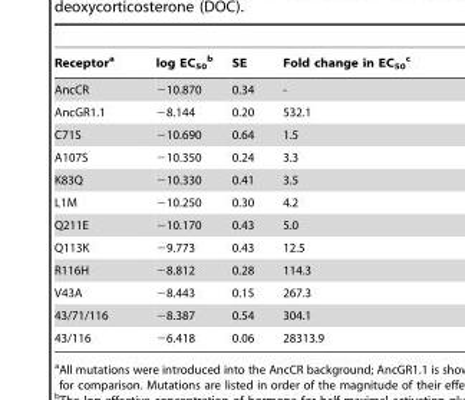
<table><thead><tr><td>Receptor<sup>a</sup></td><td>log EC<sub>50</sub> b</td><td>SE</td><td>Fold change in EC<sub>50</sub> c</td></tr></thead><tbody><tr><td>AncCR</td><td>−10.870</td><td>0.34</td><td>-</td></tr><tr><td>AncGR1.1</td><td>−8.144</td><td>0.20</td><td>532.1</td></tr><tr><td>C71S</td><td>−10.690</td><td>0.64</td><td>1.5</td></tr><tr><td>A107S</td><td>−10.350</td><td>0.24</td><td>3.3</td></tr><tr><td>K83Q</td><td>−10.330</td><td>0.41</td><td>3.5</td></tr><tr><td>L1M</td><td>−10.250</td><td>0.30</td><td>4.2</td></tr><tr><td>Q211E</td><td>−10.170</td><td>0.43</td><td>5.0</td></tr><tr><td>Q113K</td><td>−9.773</td><td>0.43</td><td>12.5</td></tr><tr><td>R116H</td><td>−8.812</td><td>0.28</td><td>114.3</td></tr><tr><td>V43A</td><td>−8.443</td><td>0.15</td><td>267.3</td></tr><tr><td>43/71/116</td><td>−8.387</td><td>0.54</td><td>304.1</td></tr><tr><td>43/116</td><td>−6.418</td><td>0.06</td><td>28313.9</td></tr></tbody></table>